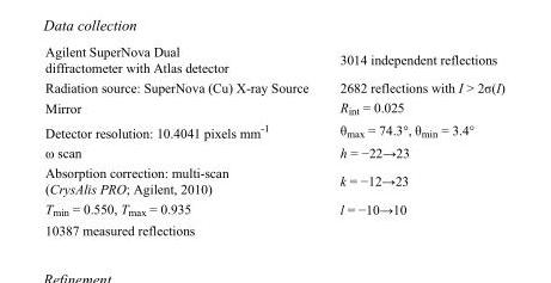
<table><tbody><tr><td>Agilent SuperNova Dual diffractometer with Atlas detector</td><td>3014 independent reflections</td></tr><tr><td>Radiation source: SuperNova (Cu) X-ray Source</td><td>2682 reflections with I &gt; 2σ(I)</td></tr><tr><td>Mirror</td><td>R<sub>int</sub> = 0.025</td></tr><tr><td>Detector resolution: 10.4041 pixels mm<sup>-1</sup></td><td>θ<sub>max</sub> = 74.3°, θ<sub>min</sub> = 3.4°</td></tr><tr><td>ω scan</td><td>h = −22→23</td></tr><tr><td>Absorption correction: multi-scan (CrysAlis PRO; Agilent, 2010)</td><td>k = −12→23</td></tr><tr><td>T<sub>min</sub> = 0.550, T<sub>max</sub> = 0.935</td><td>l = −10→10</td></tr><tr><td>10387 measured reflections</td><td></td></tr></tbody></table>